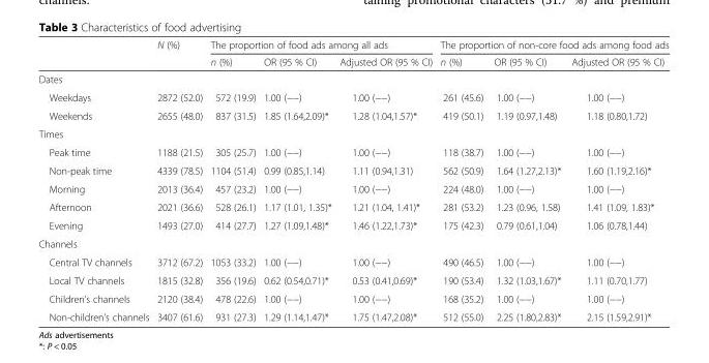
<table><thead><tr><td rowspan="2"></td><td rowspan="2">N (%)</td><td colspan="3">The proportion of food ads among all ads</td><td colspan="3">The proportion of non-core food ads among food ads</td></tr><tr><td>n (%)</td><td>OR (95 % CI)</td><td>Adjusted OR (95 % CI)</td><td>n (%)</td><td>OR (95 % CI)</td><td>Adjusted OR (95 % CI)</td></tr></thead><tbody><tr><td colspan="8">Dates</td></tr><tr><td>Weekdays</td><td>2872 (52.0)</td><td>572 (19.9)</td><td>1.00 (−−)</td><td>1.00 (−−)</td><td>261 (45.6)</td><td>1.00 (−−)</td><td>1.00 (−−)</td></tr><tr><td>Weekends</td><td>2655 (48.0)</td><td>837 (31.5)</td><td>1.85 (1.64,2.09)*</td><td>1.28 (1.04,1.57)*</td><td>419 (50.1)</td><td>1.19 (0.97,1.48)</td><td>1.18 (0.80,1.72)</td></tr><tr><td colspan="8">Times</td></tr><tr><td>Peak time</td><td>1188 (21.5)</td><td>305 (25.7)</td><td>1.00 (−−)</td><td>1.00 (−−)</td><td>118 (38.7)</td><td>1.00 (−−)</td><td>1.00 (−−)</td></tr><tr><td>Non-peak time</td><td>4339 (78.5)</td><td>1104 (51.4)</td><td>0.99 (0.85,1.14)</td><td>1.11 (0.94,1.31)</td><td>562 (50.9)</td><td>1.64 (1.27,2.13)*</td><td>1.60 (1.19,2.16)*</td></tr><tr><td>Morning</td><td>2013 (36.4)</td><td>457 (23.2)</td><td>1.00 (−−)</td><td>1.00 (−−)</td><td>224 (48.0)</td><td>1.00 (−−)</td><td>1.00 (−−)</td></tr><tr><td>Afternoon</td><td>2021 (36.6)</td><td>528 (26.1)</td><td>1.17 (1.01, 1.35)*</td><td>1.21 (1.04, 1.41)*</td><td>281 (53.2)</td><td>1.23 (0.96, 1.58)</td><td>1.41 (1.09, 1.83)*</td></tr><tr><td>Evening</td><td>1493 (27.0)</td><td>414 (27.7)</td><td>1.27 (1.09,1.48)*</td><td>1.46 (1.22,1.73)*</td><td>175 (42.3)</td><td>0.79 (0.61,1.04)</td><td>1.06 (0.78,1.44)</td></tr><tr><td colspan="8">Channels</td></tr><tr><td>Central TV channels</td><td>3712 (67.2)</td><td>1053 (33.2)</td><td>1.00 (−−)</td><td>1.00 (−−)</td><td>490 (46.5)</td><td>1.00 (−−)</td><td>1.00 (−−)</td></tr><tr><td>Local TV channels</td><td>1815 (32.8)</td><td>356 (19.6)</td><td>0.62 (0.54,0.71)*</td><td>0.53 (0.41,0.69)*</td><td>190 (53.4)</td><td>1.32 (1.03,1.67)*</td><td>1.11 (0.70,1.77)</td></tr><tr><td>Children’s channels</td><td>2120 (38.4)</td><td>478 (22.6)</td><td>1.00 (−−)</td><td>1.00 (−−)</td><td>168 (35.2)</td><td>1.00 (−−)</td><td>1.00 (−−)</td></tr><tr><td>Non-children’s channels</td><td>3407 (61.6)</td><td>931 (27.3)</td><td>1.29 (1.14,1.47)*</td><td>1.75 (1.47,2.08)*</td><td>512 (55.0)</td><td>2.25 (1.80,2.83)*</td><td>2.15 (1.59,2.91)*</td></tr></tbody></table>